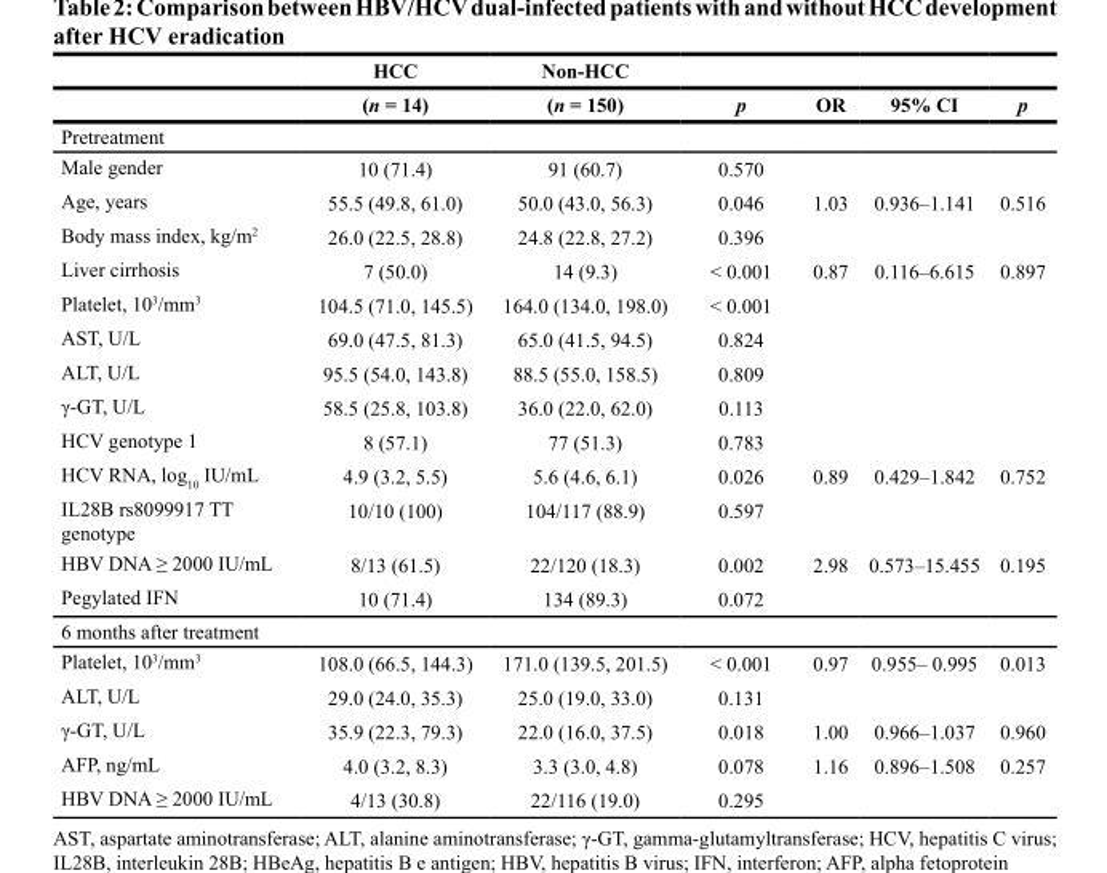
<table><thead><tr><td rowspan="2"></td><td rowspan="2">HCC (n = 14)</td><td rowspan="2">Non-HCC (n = 150)</td><td rowspan="2">p</td><td rowspan="2">OR</td><td rowspan="2">95% CI</td><td rowspan="2">p</td></tr><tr></tr></thead><tbody><tr><td colspan="7">Pretreatment</td></tr><tr><td>Male gender</td><td>10 (71.4)</td><td>91 (60.7)</td><td>0.570</td><td></td><td></td><td></td></tr><tr><td>Age, years</td><td>55.5 (49.8, 61.0)</td><td>50.0 (43.0, 56.3)</td><td>0.046</td><td>1.03</td><td>0.936–1.141</td><td>0.516</td></tr><tr><td>Body mass index, kg/m<sup>2</sup></td><td>26.0 (22.5, 28.8)</td><td>24.8 (22.8, 27.2)</td><td>0.396</td><td></td><td></td><td></td></tr><tr><td>Liver cirrhosis</td><td>7 (50.0)</td><td>14 (9.3)</td><td>&lt; 0.001</td><td>0.87</td><td>0.116–6.615</td><td>0.897</td></tr><tr><td>Platelet, 10<sup>3</sup>/mm<sup>3</sup></td><td>104.5 (71.0, 145.5)</td><td>164.0 (134.0, 198.0)</td><td>&lt; 0.001</td><td></td><td></td><td></td></tr><tr><td>AST, U/L</td><td>69.0 (47.5, 81.3)</td><td>65.0 (41.5, 94.5)</td><td>0.824</td><td></td><td></td><td></td></tr><tr><td>ALT, U/L</td><td>95.5 (54.0, 143.8)</td><td>88.5 (55.0, 158.5)</td><td>0.809</td><td></td><td></td><td></td></tr><tr><td>γ-GT, U/L</td><td>58.5 (25.8, 103.8)</td><td>36.0 (22.0, 62.0)</td><td>0.113</td><td></td><td></td><td></td></tr><tr><td>HCV genotype 1</td><td>8 (57.1)</td><td>77 (51.3)</td><td>0.783</td><td></td><td></td><td></td></tr><tr><td>HCV RNA, log<sub>10</sub> IU/mL</td><td>4.9 (3.2, 5.5)</td><td>5.6 (4.6, 6.1)</td><td>0.026</td><td>0.89</td><td>0.429–1.842</td><td>0.752</td></tr><tr><td>IL28B rs8099917 TT genotype</td><td>10/10 (100)</td><td>104/117 (88.9)</td><td>0.597</td><td></td><td></td><td></td></tr><tr><td>HBV DNA ≥ 2000 IU/mL</td><td>8/13 (61.5)</td><td>22/120 (18.3)</td><td>0.002</td><td>2.98</td><td>0.573–15.455</td><td>0.195</td></tr><tr><td>Pegylated IFN</td><td>10 (71.4)</td><td>134 (89.3)</td><td>0.072</td><td></td><td></td><td></td></tr><tr><td colspan="7">6 months after treatment</td></tr><tr><td>Platelet, 10<sup>3</sup>/mm<sup>3</sup></td><td>108.0 (66.5, 144.3)</td><td>171.0 (139.5, 201.5)</td><td>&lt; 0.001</td><td>0.97</td><td>0.955– 0.995</td><td>0.013</td></tr><tr><td>ALT, U/L</td><td>29.0 (24.0, 35.3)</td><td>25.0 (19.0, 33.0)</td><td>0.131</td><td></td><td></td><td></td></tr><tr><td>γ-GT, U/L</td><td>35.9 (22.3, 79.3)</td><td>22.0 (16.0, 37.5)</td><td>0.018</td><td>1.00</td><td>0.966–1.037</td><td>0.960</td></tr><tr><td>AFP, ng/mL</td><td>4.0 (3.2, 8.3)</td><td>3.3 (3.0, 4.8)</td><td>0.078</td><td>1.16</td><td>0.896–1.508</td><td>0.257</td></tr><tr><td>HBV DNA ≥ 2000 IU/mL</td><td>4/13 (30.8)</td><td>22/116 (19.0)</td><td>0.295</td><td></td><td></td><td></td></tr></tbody></table>